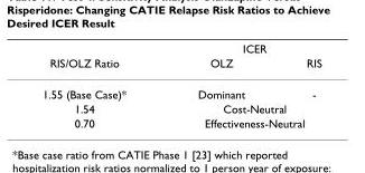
<table><thead><tr><td rowspan="2">RIS/OLZ Ratio</td><td colspan="2">ICER</td></tr><tr><td>OLZ</td><td>RIS</td></tr></thead><tbody><tr><td>1.55 (Base Case)*</td><td>Dominant</td><td>-</td></tr><tr><td>1.54</td><td colspan="2">Cost-Neutral</td></tr><tr><td>0.70</td><td colspan="2">Effectiveness-Neutral</td></tr></tbody></table>